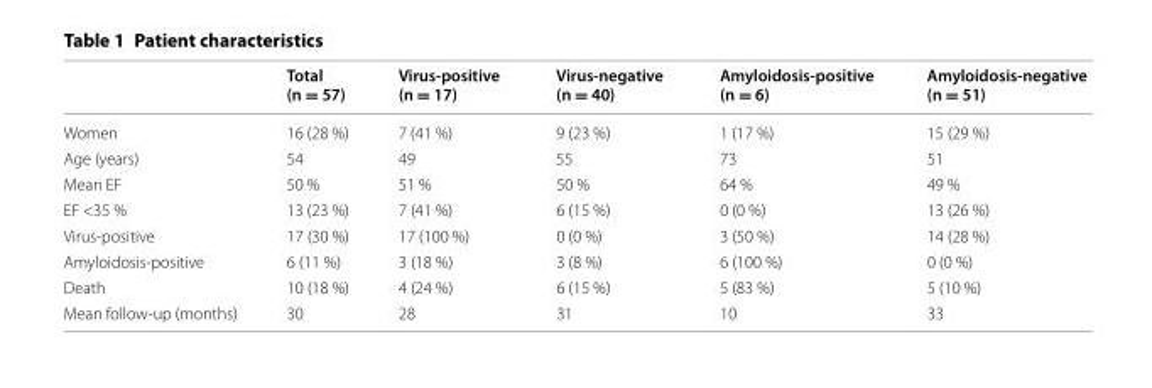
<table><thead><tr><td></td><td>Total (n = 57)</td><td>Virus-positive (n = 17)</td><td>Virus-negative (n = 40)</td><td>Amyloidosis-positive (n = 6)</td><td>Amyloidosis-negative (n = 51)</td></tr></thead><tbody><tr><td>Women</td><td>16 (28 %)</td><td>7 (41 %)</td><td>9 (23 %)</td><td>1 (17 %)</td><td>15 (29 %)</td></tr><tr><td>Age (years)</td><td>54</td><td>49</td><td>55</td><td>73</td><td>51</td></tr><tr><td>Mean EF</td><td>50 %</td><td>51 %</td><td>50 %</td><td>64 %</td><td>49 %</td></tr><tr><td>EF &lt;35 %</td><td>13 (23 %)</td><td>7 (41 %)</td><td>6 (15 %)</td><td>0 (0 %)</td><td>13 (26 %)</td></tr><tr><td>Virus‑positive</td><td>17 (30 %)</td><td>17 (100 %)</td><td>0 (0 %)</td><td>3 (50 %)</td><td>14 (28 %)</td></tr><tr><td>Amyloidosis‑positive</td><td>6 (11 %)</td><td>3 (18 %)</td><td>3 (8 %)</td><td>6 (100 %)</td><td>0 (0 %)</td></tr><tr><td>Death</td><td>10 (18 %)</td><td>4 (24 %)</td><td>6 (15 %)</td><td>5 (83 %)</td><td>5 (10 %)</td></tr><tr><td>Mean follow‑up (months)</td><td>30</td><td>28</td><td>31</td><td>10</td><td>33</td></tr></tbody></table>